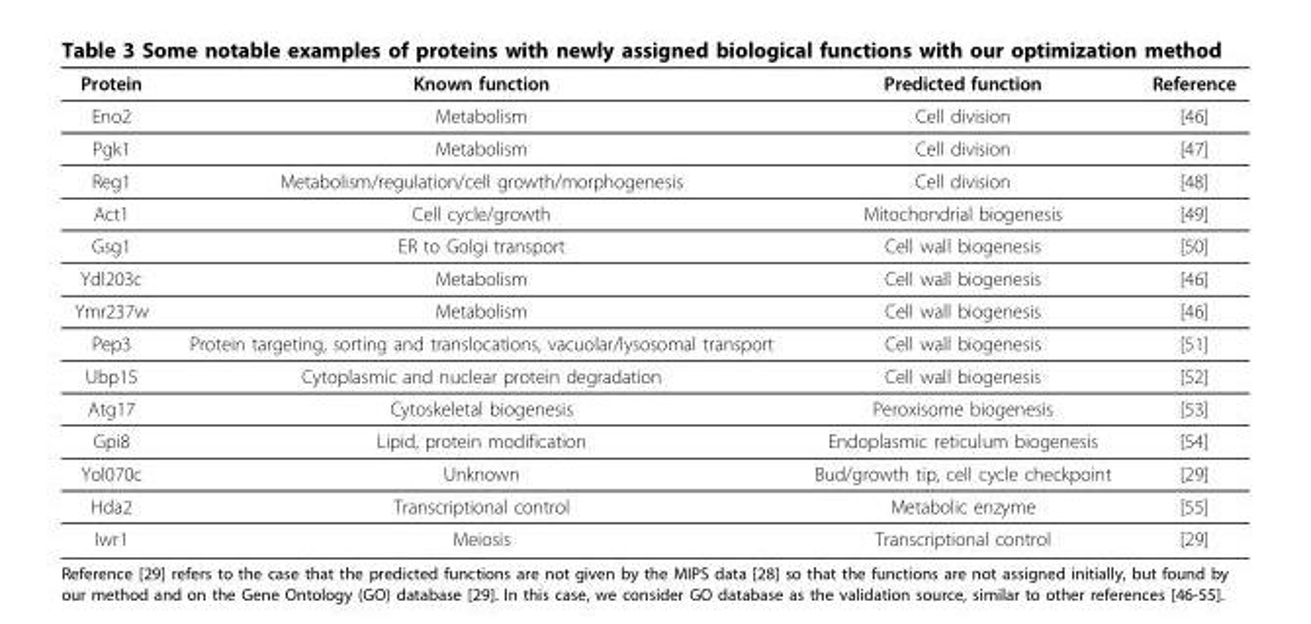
<table><thead><tr><td>Protein</td><td>Known function</td><td>Predicted function</td><td>Reference</td></tr></thead><tbody><tr><td>Eno2</td><td>Metabolism</td><td>Cell division</td><td>[46]</td></tr><tr><td>Pgk1</td><td>Metabolism</td><td>Cell division</td><td>[47]</td></tr><tr><td>Reg1</td><td>Metabolism/regulation/cell growth/morphogenesis</td><td>Cell division</td><td>[48]</td></tr><tr><td>Act1</td><td>Cell cycle/growth</td><td>Mitochondrial biogenesis</td><td>[49]</td></tr><tr><td>Gsg1</td><td>ER to Golgi transport</td><td>Cell wall biogenesis</td><td>[50]</td></tr><tr><td>Ydl203c</td><td>Metabolism</td><td>Cell wall biogenesis</td><td>[46]</td></tr><tr><td>Ymr237w</td><td>Metabolism</td><td>Cell wall biogenesis</td><td>[46]</td></tr><tr><td>Pep3</td><td>Protein targeting, sorting and translocations, vacuolar/lysosomal transport</td><td>Cell wall biogenesis</td><td>[51]</td></tr><tr><td>Ubp15</td><td>Cytoplasmic and nuclear protein degradation</td><td>Cell wall biogenesis</td><td>[52]</td></tr><tr><td>Atg17</td><td>Cytoskeletal biogenesis</td><td>Peroxisome biogenesis</td><td>[53]</td></tr><tr><td>Gpi8</td><td>Lipid, protein modification</td><td>Endoplasmic reticulum biogenesis</td><td>[54]</td></tr><tr><td>Yol070c</td><td>Unknown</td><td>Bud/growth tip, cell cycle checkpoint</td><td>[29]</td></tr><tr><td>Hda2</td><td>Transcriptional control</td><td>Metabolic enzyme</td><td>[55]</td></tr><tr><td>Iwr1</td><td>Meiosis</td><td>Transcriptional control</td><td>[29]</td></tr></tbody></table>